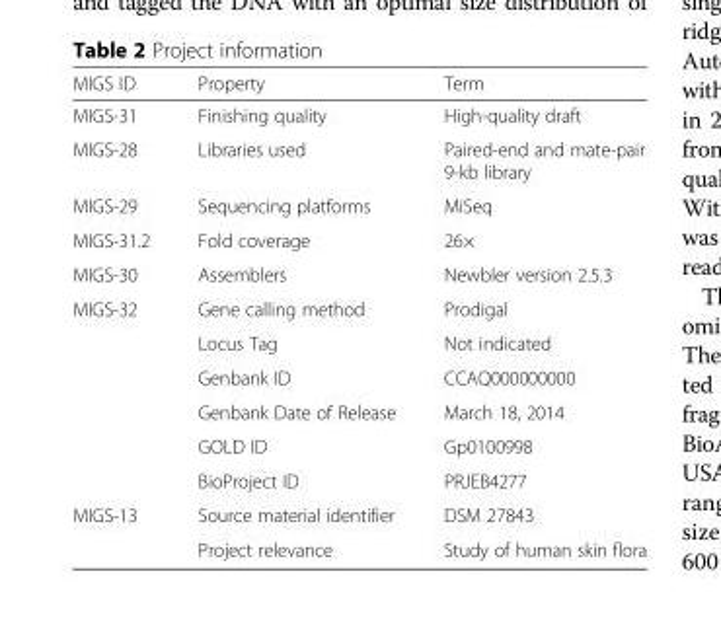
<table><thead><tr><td>MIGS ID</td><td>Property</td><td>Term</td></tr></thead><tbody><tr><td>MIGS-31</td><td>Finishing quality</td><td>High-quality draft</td></tr><tr><td>MIGS-28</td><td>Libraries used</td><td>Paired-end and mate-pair 9-kb library</td></tr><tr><td>MIGS-29</td><td>Sequencing platforms</td><td>MiSeq</td></tr><tr><td>MIGS-31.2</td><td>Fold coverage</td><td>26×</td></tr><tr><td>MIGS-30</td><td>Assemblers</td><td>Newbler version 2.5.3</td></tr><tr><td rowspan="6">MIGS-32</td><td>Gene calling method</td><td>Prodigal</td></tr><tr><td>Locus Tag</td><td>Not indicated</td></tr><tr><td>Genbank ID</td><td>CCAQ000000000</td></tr><tr><td>Genbank Date of Release</td><td>March 18, 2014</td></tr><tr><td>GOLD ID</td><td>Gp0100998</td></tr><tr><td>BioProject ID</td><td>PRJEB4277</td></tr><tr><td rowspan="2">MIGS-13</td><td>Source material identifier</td><td>DSM 27843</td></tr><tr><td>Project relevance</td><td>Study of human skin flora</td></tr></tbody></table>